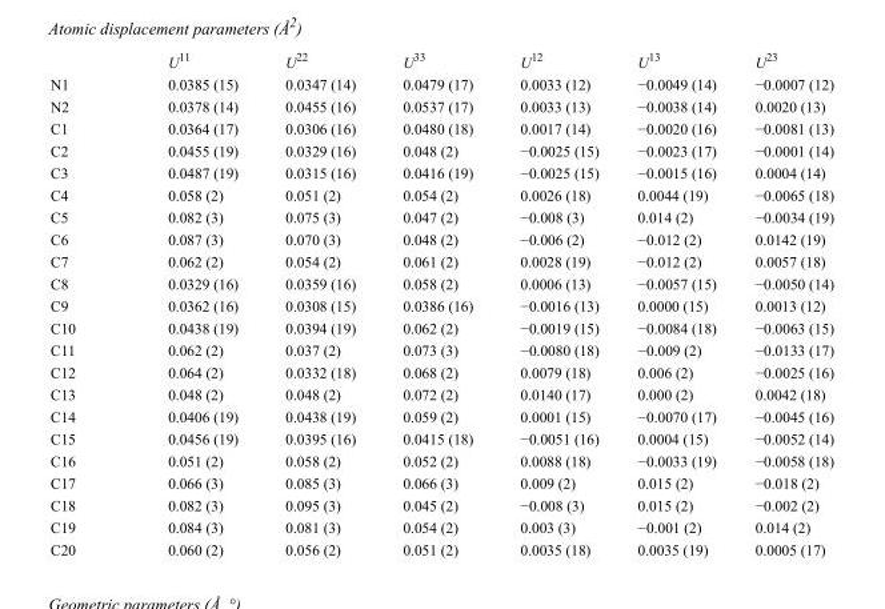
<table><thead><tr><td></td><td>U<sup>11</sup></td><td>U<sup>22</sup></td><td>U<sup>33</sup></td><td>U<sup>12</sup></td><td>U<sup>13</sup></td><td>U<sup>23</sup></td></tr></thead><tbody><tr><td>N1</td><td>0.0385 (15)</td><td>0.0347 (14)</td><td>0.0479 (17)</td><td>0.0033 (12)</td><td>−0.0049 (14)</td><td>−0.0007 (12)</td></tr><tr><td>N2</td><td>0.0378 (14)</td><td>0.0455 (16)</td><td>0.0537 (17)</td><td>0.0033 (13)</td><td>−0.0038 (14)</td><td>0.0020 (13)</td></tr><tr><td>C1</td><td>0.0364 (17)</td><td>0.0306 (16)</td><td>0.0480 (18)</td><td>0.0017 (14)</td><td>−0.0020 (16)</td><td>−0.0081 (13)</td></tr><tr><td>C2</td><td>0.0455 (19)</td><td>0.0329 (16)</td><td>0.048 (2)</td><td>−0.0025 (15)</td><td>−0.0023 (17)</td><td>−0.0001 (14)</td></tr><tr><td>C3</td><td>0.0487 (19)</td><td>0.0315 (16)</td><td>0.0416 (19)</td><td>−0.0025 (15)</td><td>−0.0015 (16)</td><td>0.0004 (14)</td></tr><tr><td>C4</td><td>0.058 (2)</td><td>0.051 (2)</td><td>0.054 (2)</td><td>0.0026 (18)</td><td>0.0044 (19)</td><td>−0.0065 (18)</td></tr><tr><td>C5</td><td>0.082 (3)</td><td>0.075 (3)</td><td>0.047 (2)</td><td>−0.008 (3)</td><td>0.014 (2)</td><td>−0.0034 (19)</td></tr><tr><td>C6</td><td>0.087 (3)</td><td>0.070 (3)</td><td>0.048 (2)</td><td>−0.006 (2)</td><td>−0.012 (2)</td><td>0.0142 (19)</td></tr><tr><td>C7</td><td>0.062 (2)</td><td>0.054 (2)</td><td>0.061 (2)</td><td>0.0028 (19)</td><td>−0.012 (2)</td><td>0.0057 (18)</td></tr><tr><td>C8</td><td>0.0329 (16)</td><td>0.0359 (16)</td><td>0.058 (2)</td><td>0.0006 (13)</td><td>−0.0057 (15)</td><td>−0.0050 (14)</td></tr><tr><td>C9</td><td>0.0362 (16)</td><td>0.0308 (15)</td><td>0.0386 (16)</td><td>−0.0016 (13)</td><td>0.0000 (15)</td><td>0.0013 (12)</td></tr><tr><td>C10</td><td>0.0438 (19)</td><td>0.0394 (19)</td><td>0.062 (2)</td><td>−0.0019 (15)</td><td>−0.0084 (18)</td><td>−0.0063 (15)</td></tr><tr><td>C11</td><td>0.062 (2)</td><td>0.037 (2)</td><td>0.073 (3)</td><td>−0.0080 (18)</td><td>−0.009 (2)</td><td>−0.0133 (17)</td></tr><tr><td>C12</td><td>0.064 (2)</td><td>0.0332 (18)</td><td>0.068 (2)</td><td>0.0079 (18)</td><td>0.006 (2)</td><td>−0.0025 (16)</td></tr><tr><td>C13</td><td>0.048 (2)</td><td>0.048 (2)</td><td>0.072 (2)</td><td>0.0140 (17)</td><td>0.000 (2)</td><td>0.0042 (18)</td></tr><tr><td>C14</td><td>0.0406 (19)</td><td>0.0438 (19)</td><td>0.059 (2)</td><td>0.0001 (15)</td><td>−0.0070 (17)</td><td>−0.0045 (16)</td></tr><tr><td>C15</td><td>0.0456 (19)</td><td>0.0395 (16)</td><td>0.0415 (18)</td><td>−0.0051 (16)</td><td>0.0004 (15)</td><td>−0.0052 (14)</td></tr><tr><td>C16</td><td>0.051 (2)</td><td>0.058 (2)</td><td>0.052 (2)</td><td>0.0088 (18)</td><td>−0.0033 (19)</td><td>−0.0058 (18)</td></tr><tr><td>C17</td><td>0.066 (3)</td><td>0.085 (3)</td><td>0.066 (3)</td><td>0.009 (2)</td><td>0.015 (2)</td><td>−0.018 (2)</td></tr><tr><td>C18</td><td>0.082 (3)</td><td>0.095 (3)</td><td>0.045 (2)</td><td>−0.008 (3)</td><td>0.015 (2)</td><td>−0.002 (2)</td></tr><tr><td>C19</td><td>0.084 (3)</td><td>0.081 (3)</td><td>0.054 (2)</td><td>0.003 (3)</td><td>−0.001 (2)</td><td>0.014 (2)</td></tr><tr><td>C20</td><td>0.060 (2)</td><td>0.056 (2)</td><td>0.051 (2)</td><td>0.0035 (18)</td><td>0.0035 (19)</td><td>0.0005 (17)</td></tr></tbody></table>